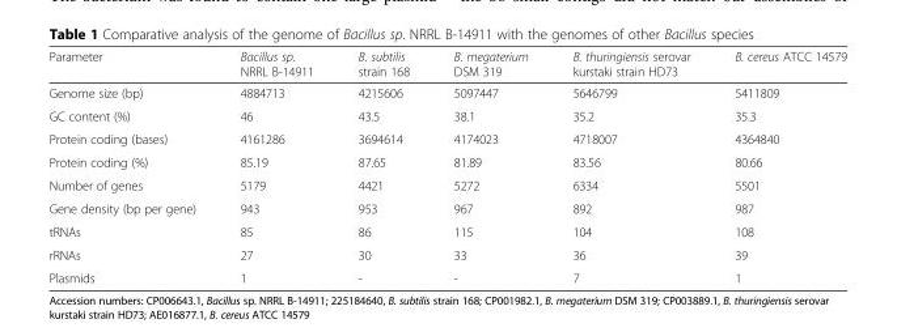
<table><thead><tr><td>Parameter</td><td>Bacillus sp. NRRL B-14911</td><td>B. subtilis strain 168</td><td>B. megaterium DSM 319</td><td>B. thuringiensis serovar kurstaki strain HD73</td><td>B. cereus ATCC 14579</td></tr></thead><tbody><tr><td>Genome size (bp)</td><td>4884713</td><td>4215606</td><td>5097447</td><td>5646799</td><td>5411809</td></tr><tr><td>GC content (%)</td><td>46</td><td>43.5</td><td>38.1</td><td>35.2</td><td>35.3</td></tr><tr><td>Protein coding (bases)</td><td>4161286</td><td>3694614</td><td>4174023</td><td>4718007</td><td>4364840</td></tr><tr><td>Protein coding (%)</td><td>85.19</td><td>87.65</td><td>81.89</td><td>83.56</td><td>80.66</td></tr><tr><td>Number of genes</td><td>5179</td><td>4421</td><td>5272</td><td>6334</td><td>5501</td></tr><tr><td>Gene density (bp per gene)</td><td>943</td><td>953</td><td>967</td><td>892</td><td>987</td></tr><tr><td>tRNAs</td><td>85</td><td>86</td><td>115</td><td>104</td><td>108</td></tr><tr><td>rRNAs</td><td>27</td><td>30</td><td>33</td><td>36</td><td>39</td></tr><tr><td>Plasmids</td><td>1</td><td>-</td><td>-</td><td>7</td><td>1</td></tr></tbody></table>